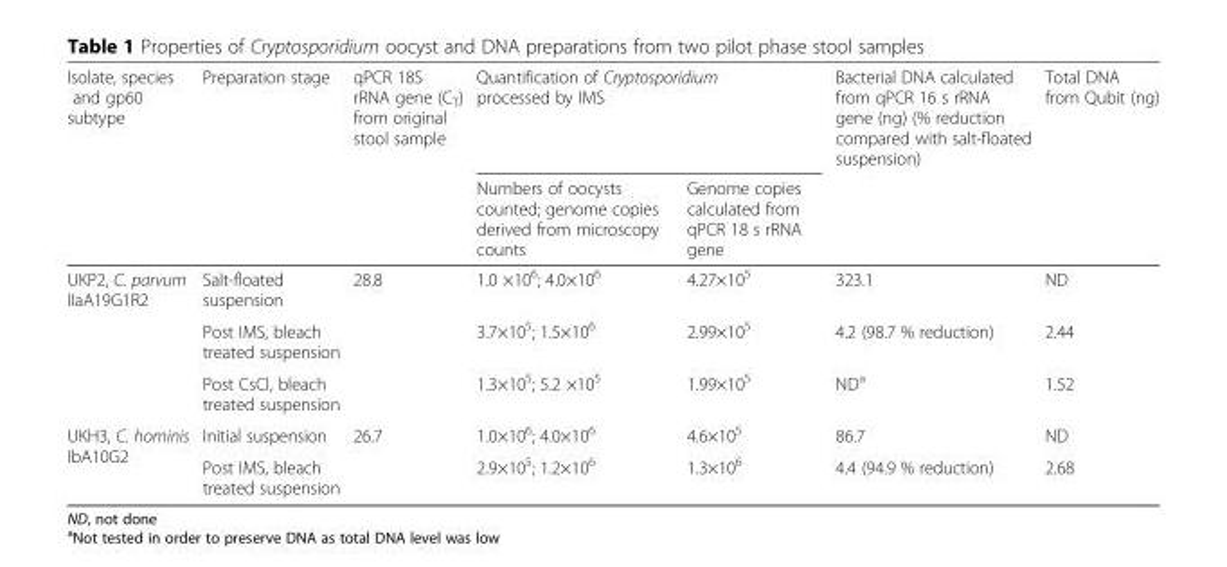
<table><thead><tr><td rowspan="2">Isolate, species and gp60 subtype</td><td rowspan="2">Preparation stage</td><td rowspan="2">qPCR 18S rRNA gene (C<sub>T</sub>) from original stool sample</td><td colspan="2">Quantification of Cryptosporidium processed by IMS</td><td rowspan="2">Bacterial DNA calculated from qPCR 16 s rRNA gene (ng) (% reduction compared with salt-floated suspension)</td><td rowspan="2">Total DNA from Qubit (ng)</td></tr><tr><td>Numbers of oocysts counted; genome copies derived from microscopy counts</td><td>Genome copies calculated from qPCR 18 s rRNA gene</td></tr></thead><tbody><tr><td rowspan="3">UKP2, C. parvum IIaA19G1R2</td><td>Salt-floated suspension</td><td>28.8</td><td>1.0 ×10<sup>6</sup>; 4.0×10<sup>6</sup></td><td>4.27×10<sup>5</sup></td><td>323.1</td><td>ND</td></tr><tr><td>Post IMS, bleach treated suspension</td><td></td><td>3.7×10<sup>5</sup>; 1.5×10<sup>6</sup></td><td>2.99×10<sup>5</sup></td><td>4.2 (98.7 % reduction)</td><td>2.44</td></tr><tr><td>Post CsCl, bleach treated suspension</td><td></td><td>1.3×10<sup>5</sup>; 5.2 ×10<sup>5</sup></td><td>1.99×10<sup>5</sup></td><td>ND<sup>a</sup></td><td>1.52</td></tr><tr><td rowspan="2">UKH3, C. hominis IbA10G2</td><td>Initial suspension</td><td>26.7</td><td>1.0×10<sup>6</sup>; 4.0×10<sup>6</sup></td><td>4.6×10<sup>5</sup></td><td>86.7</td><td>ND</td></tr><tr><td>Post IMS, bleach treated suspension</td><td></td><td>2.9×10<sup>5</sup>; 1.2×10<sup>6</sup></td><td>1.3×10<sup>6</sup></td><td>4.4 (94.9 % reduction)</td><td>2.68</td></tr></tbody></table>